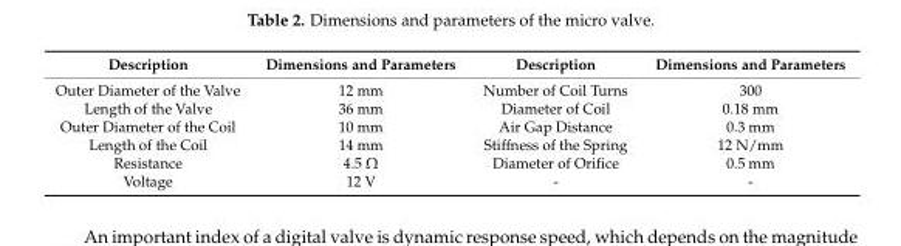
<table><thead><tr><td>Description</td><td>Dimensions and Parameters</td><td>Description</td><td>Dimensions and Parameters</td></tr></thead><tbody><tr><td>Outer Diameter of the Valve</td><td>12 mm</td><td>Number of Coil Turns</td><td>300</td></tr><tr><td>Length of the Valve</td><td>36 mm</td><td>Diameter of Coil</td><td>0.18 mm</td></tr><tr><td>Outer Diameter of the Coil</td><td>10 mm</td><td>Air Gap Distance</td><td>0.3 mm</td></tr><tr><td>Length of the Coil</td><td>14 mm</td><td>Stiffness of the Spring</td><td>12 N/mm</td></tr><tr><td>Resistance</td><td>4.5 Ω</td><td>Diameter of Orifice</td><td>0.5 mm</td></tr><tr><td>Voltage</td><td>12 V</td><td>-</td><td>-</td></tr></tbody></table>